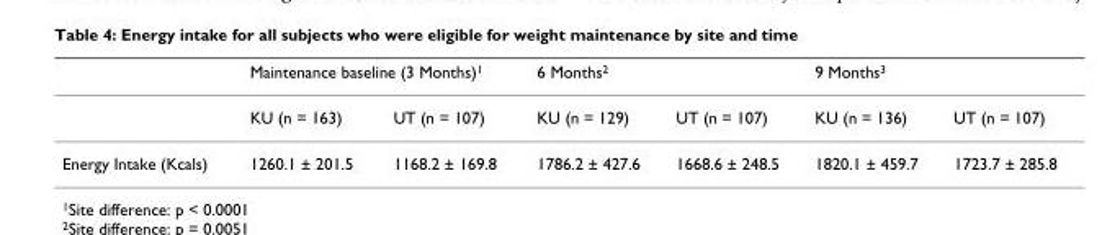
<table><thead><tr><td rowspan="2"></td><td colspan="2">Maintenance baseline (3 Months)<sup>1</sup></td><td colspan="2">6 Months<sup>2</sup></td><td colspan="2">9 Months<sup>3</sup></td></tr><tr><td>KU (n = 163)</td><td>UT (n = 107)</td><td>KU (n = 129)</td><td>UT (n = 107)</td><td>KU (n = 136)</td><td>UT (n = 107)</td></tr></thead><tbody><tr><td>Energy Intake (Kcals)</td><td>1260.1 ± 201.5</td><td>1168.2 ± 169.8</td><td>1786.2 ± 427.6</td><td>1668.6 ± 248.5</td><td>1820.1 ± 459.7</td><td>1723.7 ± 285.8</td></tr></tbody></table>